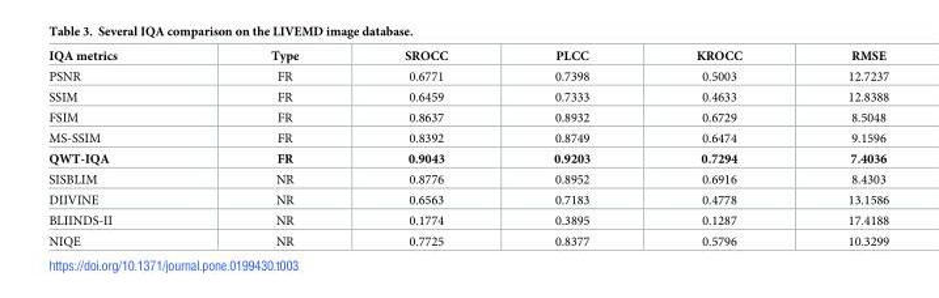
<table><thead><tr><td>IQA metrics</td><td>Type</td><td>SROCC</td><td>PLCC</td><td>KROCC</td><td>RMSE</td></tr></thead><tbody><tr><td>PSNR</td><td>FR</td><td>0.6771</td><td>0.7398</td><td>0.5003</td><td>12.7237</td></tr><tr><td>SSIM</td><td>FR</td><td>0.6459</td><td>0.7333</td><td>0.4633</td><td>12.8388</td></tr><tr><td>FSIM</td><td>FR</td><td>0.8637</td><td>0.8932</td><td>0.6729</td><td>8.5048</td></tr><tr><td>MS-SSIM</td><td>FR</td><td>0.8392</td><td>0.8749</td><td>0.6474</td><td>9.1596</td></tr><tr><td>QWT-IQA</td><td>FR</td><td>0.9043</td><td>0.9203</td><td>0.7294</td><td>7.4036</td></tr><tr><td>SISBLIM</td><td>NR</td><td>0.8776</td><td>0.8952</td><td>0.6916</td><td>8.4303</td></tr><tr><td>DIIVINE</td><td>NR</td><td>0.6563</td><td>0.7183</td><td>0.4778</td><td>13.1586</td></tr><tr><td>BLIINDS-II</td><td>NR</td><td>0.1774</td><td>0.3895</td><td>0.1287</td><td>17.4188</td></tr><tr><td>NIQE</td><td>NR</td><td>0.7725</td><td>0.8377</td><td>0.5796</td><td>10.3299</td></tr></tbody></table>